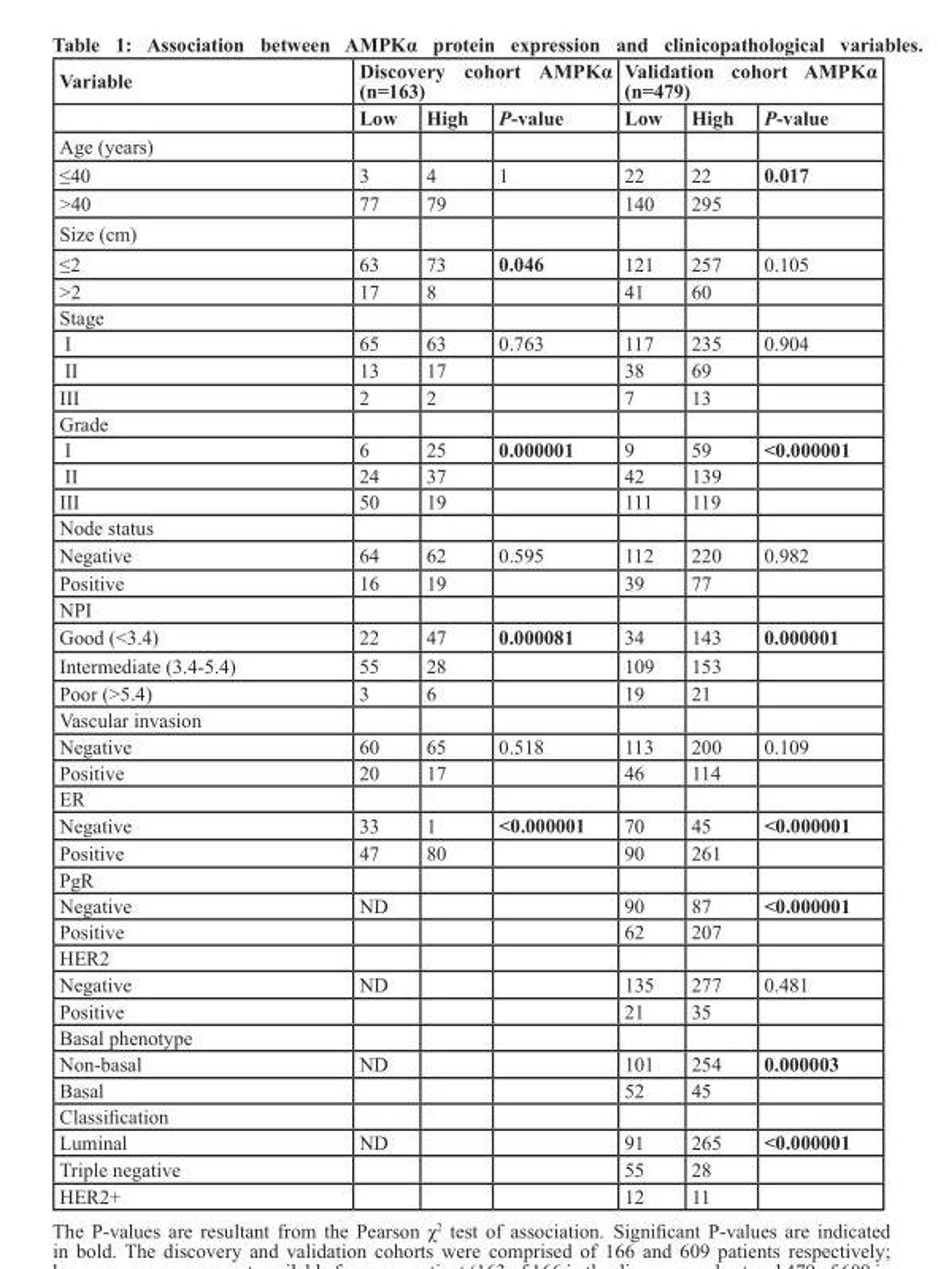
<table><thead><tr><td rowspan="2">Variable</td><td colspan="3">Discovery cohort AMPKα (n=163)</td><td colspan="3">Validation cohort AMPKα (n=479)</td></tr><tr><td>Low</td><td>High</td><td>P-value</td><td>Low</td><td>High</td><td>P-value</td></tr></thead><tbody><tr><td colspan="7">Age (years)</td></tr><tr><td>≤40</td><td>3</td><td>4</td><td>1</td><td>22</td><td>22</td><td>0.017</td></tr><tr><td>&gt;40</td><td>77</td><td>79</td><td></td><td>140</td><td>295</td><td></td></tr><tr><td colspan="7">Size (cm)</td></tr><tr><td>≤2</td><td>63</td><td>73</td><td>0.046</td><td>121</td><td>257</td><td>0.105</td></tr><tr><td>&gt;2</td><td>17</td><td>8</td><td></td><td>41</td><td>60</td><td></td></tr><tr><td colspan="7">Stage</td></tr><tr><td>I</td><td>65</td><td>63</td><td>0.763</td><td>117</td><td>235</td><td>0.904</td></tr><tr><td>II</td><td>13</td><td>17</td><td></td><td>38</td><td>69</td><td></td></tr><tr><td>III</td><td>2</td><td>2</td><td></td><td>7</td><td>13</td><td></td></tr><tr><td colspan="7">Grade</td></tr><tr><td>I</td><td>6</td><td>25</td><td>0.000001</td><td>9</td><td>59</td><td>&lt;0.000001</td></tr><tr><td>II</td><td>24</td><td>37</td><td></td><td>42</td><td>139</td><td></td></tr><tr><td>III</td><td>50</td><td>19</td><td></td><td>111</td><td>119</td><td></td></tr><tr><td colspan="7">Node status</td></tr><tr><td>Negative</td><td>64</td><td>62</td><td>0.595</td><td>112</td><td>220</td><td>0.982</td></tr><tr><td>Positive</td><td>16</td><td>19</td><td></td><td>39</td><td>77</td><td></td></tr><tr><td colspan="7">NPI</td></tr><tr><td>Good (&lt;3.4)</td><td>22</td><td>47</td><td>0.000081</td><td>34</td><td>143</td><td>0.000001</td></tr><tr><td>Intermediate (3.4-5.4)</td><td>55</td><td>28</td><td></td><td>109</td><td>153</td><td></td></tr><tr><td>Poor (&gt;5.4)</td><td>3</td><td>6</td><td></td><td>19</td><td>21</td><td></td></tr><tr><td colspan="7">Vascular invasion</td></tr><tr><td>Negative</td><td>60</td><td>65</td><td>0.518</td><td>113</td><td>200</td><td>0.109</td></tr><tr><td>Positive</td><td>20</td><td>17</td><td></td><td>46</td><td>114</td><td></td></tr><tr><td colspan="7">ER</td></tr><tr><td>Negative</td><td>33</td><td>1</td><td>&lt;0.000001</td><td>70</td><td>45</td><td>&lt;0.000001</td></tr><tr><td>Positive</td><td>47</td><td>80</td><td></td><td>90</td><td>261</td><td></td></tr><tr><td colspan="7">PgR</td></tr><tr><td>Negative</td><td>ND</td><td></td><td></td><td>90</td><td>87</td><td>&lt;0.000001</td></tr><tr><td>Positive</td><td></td><td></td><td></td><td>62</td><td>207</td><td></td></tr><tr><td colspan="7">HER2</td></tr><tr><td>Negative</td><td>ND</td><td></td><td></td><td>135</td><td>277</td><td>0.481</td></tr><tr><td>Positive</td><td></td><td></td><td></td><td>21</td><td>35</td><td></td></tr><tr><td colspan="7">Basal phenotype</td></tr><tr><td>Non-basal</td><td>ND</td><td></td><td></td><td>101</td><td>254</td><td>0.000003</td></tr><tr><td>Basal</td><td></td><td></td><td></td><td>52</td><td>45</td><td></td></tr><tr><td colspan="7">Classification</td></tr><tr><td>Luminal</td><td>ND</td><td></td><td></td><td>91</td><td>265</td><td>&lt;0.000001</td></tr><tr><td>Triple negative</td><td></td><td></td><td></td><td>55</td><td>28</td><td></td></tr><tr><td>HER2+</td><td></td><td></td><td></td><td>12</td><td>11</td><td></td></tr></tbody></table>